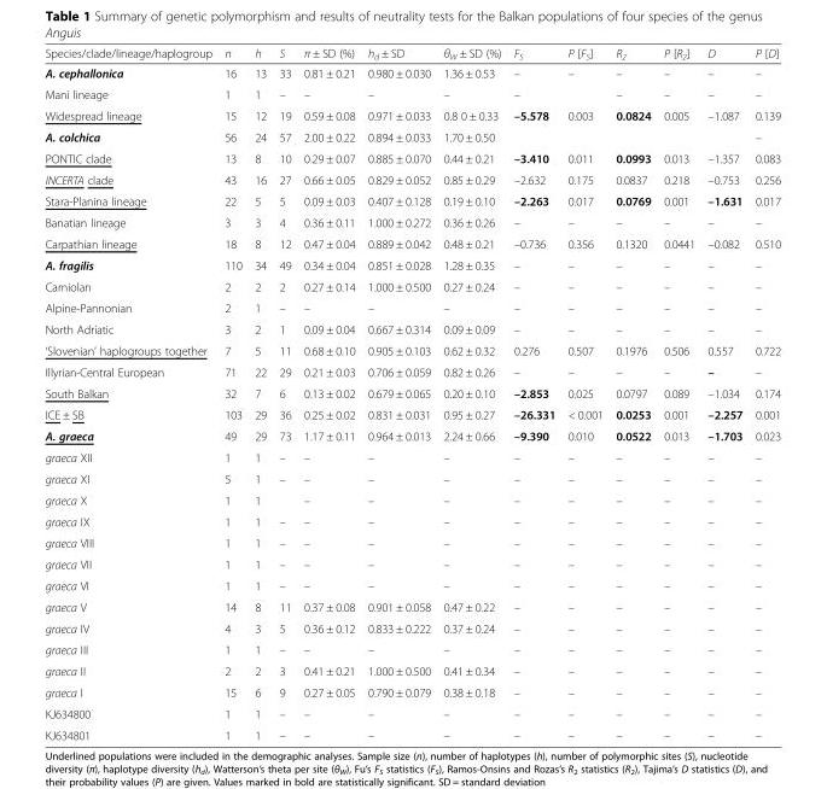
<table><thead><tr><td>Species/clade/lineage/haplogroup</td><td>n</td><td>h</td><td>S</td><td>π ± SD (%)</td><td>h<sub>d</sub> ± SD</td><td>θ<sub>W</sub> ± SD (%)</td><td>F<sub>S</sub></td><td>P [F<sub>S</sub>]</td><td>R<sub>2</sub></td><td>P [R<sub>2</sub>]</td><td>D</td><td>P [D]</td></tr></thead><tbody><tr><td>A. cephallonica</td><td>16</td><td>13</td><td>33</td><td>0.81 ± 0.21</td><td>0.980 ± 0.030</td><td>1.36 ± 0.53</td><td>–</td><td>–</td><td>–</td><td>–</td><td>–</td><td>–</td></tr><tr><td>Mani lineage</td><td>1</td><td>1</td><td>–</td><td>–</td><td>–</td><td>–</td><td>–</td><td></td><td>–</td><td>–</td><td>–</td><td>–</td></tr><tr><td>Widespread lineage</td><td>15</td><td>12</td><td>19</td><td>0.59 ± 0.08</td><td>0.971 ± 0.033</td><td>0.8 0 ± 0.33</td><td>–5.578</td><td>0.003</td><td>0.0824</td><td>0.005</td><td>–1.087</td><td>0.139</td></tr><tr><td>A. colchica</td><td>56</td><td>24</td><td>57</td><td>2.00 ± 0.22</td><td>0.894 ± 0.033</td><td>1.70 ± 0.50</td><td></td><td></td><td></td><td></td><td></td><td>–</td></tr><tr><td>PONTIC clade</td><td>13</td><td>8</td><td>10</td><td>0.29 ± 0.07</td><td>0.885 ± 0.070</td><td>0.44 ± 0.21</td><td>–3.410</td><td>0.011</td><td>0.0993</td><td>0.013</td><td>–1.357</td><td>0.083</td></tr><tr><td>INCERTA clade</td><td>43</td><td>16</td><td>27</td><td>0.66 ± 0.05</td><td>0.829 ± 0.052</td><td>0.85 ± 0.29</td><td>–2.632</td><td>0.175</td><td>0.0837</td><td>0.218</td><td>–0.753</td><td>0.256</td></tr><tr><td>Stara-Planina lineage</td><td>22</td><td>5</td><td>5</td><td>0.09 ± 0.03</td><td>0.407 ± 0.128</td><td>0.19 ± 0.10</td><td>–2.263</td><td>0.017</td><td>0.0769</td><td>0.001</td><td>–1.631</td><td>0.017</td></tr><tr><td>Banatian lineage</td><td>3</td><td>3</td><td>4</td><td>0.36 ± 0.11</td><td>1.000 ± 0.272</td><td>0.36 ± 0.26</td><td>–</td><td>–</td><td>–</td><td>–</td><td>–</td><td>–</td></tr><tr><td>Carpathian lineage</td><td>18</td><td>8</td><td>12</td><td>0.47 ± 0.04</td><td>0.889 ± 0.042</td><td>0.48 ± 0.21</td><td>–0.736</td><td>0.356</td><td>0.1320</td><td>0.0441</td><td>–0.082</td><td>0.510</td></tr><tr><td>A. fragilis</td><td>110</td><td>34</td><td>49</td><td>0.34 ± 0.04</td><td>0.851 ± 0.028</td><td>1.28 ± 0.35</td><td>–</td><td>–</td><td>–</td><td>–</td><td>–</td><td>–</td></tr><tr><td>Carniolan</td><td>2</td><td>2</td><td>2</td><td>0.27 ± 0.14</td><td>1.000 ± 0.500</td><td>0.27 ± 0.24</td><td>–</td><td>–</td><td>–</td><td>–</td><td>–</td><td>–</td></tr><tr><td>Alpine-Pannonian</td><td>2</td><td>1</td><td>–</td><td>–</td><td>–</td><td>–</td><td>–</td><td>–</td><td>–</td><td>–</td><td>–</td><td>–</td></tr><tr><td>North Adriatic</td><td>3</td><td>2</td><td>1</td><td>0.09 ± 0.04</td><td>0.667 ± 0.314</td><td>0.09 ± 0.09</td><td>–</td><td>–</td><td>–</td><td>–</td><td>–</td><td>–</td></tr><tr><td>‘Slovenian’ haplogroups together</td><td>7</td><td>5</td><td>11</td><td>0.68 ± 0.10</td><td>0.905 ± 0.103</td><td>0.62 ± 0.32</td><td>0.276</td><td>0.507</td><td>0.1976</td><td>0.506</td><td>0.557</td><td>0.722</td></tr><tr><td>Illyrian-Central European</td><td>71</td><td>22</td><td>29</td><td>0.21 ± 0.03</td><td>0.706 ± 0.059</td><td>0.82 ± 0.26</td><td>–</td><td>–</td><td>–</td><td>–</td><td>–</td><td>–</td></tr><tr><td>South Balkan</td><td>32</td><td>7</td><td>6</td><td>0.13 ± 0.02</td><td>0.679 ± 0.065</td><td>0.20 ± 0.10</td><td>–2.853</td><td>0.025</td><td>0.0797</td><td>0.089</td><td>–1.034</td><td>0.174</td></tr><tr><td>ICE ± SB</td><td>103</td><td>29</td><td>36</td><td>0.25 ± 0.02</td><td>0.831 ± 0.031</td><td>0.95 ± 0.27</td><td>–26.331</td><td>&lt; 0.001</td><td>0.0253</td><td>0.001</td><td>–2.257</td><td>0.001</td></tr><tr><td>A. graeca</td><td>49</td><td>29</td><td>73</td><td>1.17 ± 0.11</td><td>0.964 ± 0.013</td><td>2.24 ± 0.66</td><td>–9.390</td><td>0.010</td><td>0.0522</td><td>0.013</td><td>–1.703</td><td>0.023</td></tr><tr><td>graeca XII</td><td>1</td><td>1</td><td>–</td><td>–</td><td>–</td><td>–</td><td>–</td><td>–</td><td>–</td><td>–</td><td>–</td><td>–</td></tr><tr><td>graeca XI</td><td>5</td><td>1</td><td>–</td><td>–</td><td>–</td><td>–</td><td>–</td><td>–</td><td>–</td><td>–</td><td>–</td><td>–</td></tr><tr><td>graeca X</td><td>1</td><td>1</td><td></td><td>–</td><td>–</td><td>–</td><td>–</td><td>–</td><td>–</td><td>–</td><td>–</td><td>–</td></tr><tr><td>graeca IX</td><td>1</td><td>1</td><td>–</td><td>–</td><td>–</td><td>–</td><td>–</td><td>–</td><td>–</td><td>–</td><td>–</td><td>–</td></tr><tr><td>graeca VIII</td><td>1</td><td>1</td><td>–</td><td>–</td><td>–</td><td>–</td><td>–</td><td>–</td><td>–</td><td>–</td><td>–</td><td>–</td></tr><tr><td>graeca VII</td><td>1</td><td>1</td><td>–</td><td>–</td><td>–</td><td>–</td><td>–</td><td>–</td><td>–</td><td>–</td><td>–</td><td>–</td></tr><tr><td>graeca VI</td><td>1</td><td>1</td><td>–</td><td>–</td><td>–</td><td>–</td><td>–</td><td>–</td><td>–</td><td>–</td><td>–</td><td>–</td></tr><tr><td>graeca V</td><td>14</td><td>8</td><td>11</td><td>0.37 ± 0.08</td><td>0.901 ± 0.058</td><td>0.47 ± 0.22</td><td>–</td><td>–</td><td>–</td><td>–</td><td>–</td><td>–</td></tr><tr><td>graeca IV</td><td>4</td><td>3</td><td>5</td><td>0.36 ± 0.12</td><td>0.833 ± 0.222</td><td>0.37 ± 0.24</td><td>–</td><td>–</td><td>–</td><td>–</td><td>–</td><td>–</td></tr><tr><td>graeca III</td><td>1</td><td>1</td><td>–</td><td>–</td><td>–</td><td>–</td><td>–</td><td>–</td><td>–</td><td>–</td><td>–</td><td>–</td></tr><tr><td>graeca II</td><td>2</td><td>2</td><td>3</td><td>0.41 ± 0.21</td><td>1.000 ± 0.500</td><td>0.41 ± 0.34</td><td>–</td><td>–</td><td>–</td><td>–</td><td>–</td><td>–</td></tr><tr><td>graeca I</td><td>15</td><td>6</td><td>9</td><td>0.27 ± 0.05</td><td>0.790 ± 0.079</td><td>0.38 ± 0.18</td><td>–</td><td>–</td><td>–</td><td>–</td><td>–</td><td>–</td></tr><tr><td>KJ634800</td><td>1</td><td>1</td><td>–</td><td>–</td><td>–</td><td>–</td><td>–</td><td>–</td><td>–</td><td>–</td><td>–</td><td>–</td></tr><tr><td>KJ634801</td><td>1</td><td>1</td><td>–</td><td>–</td><td>–</td><td>–</td><td>–</td><td>–</td><td>–</td><td>–</td><td>–</td><td>–</td></tr></tbody></table>